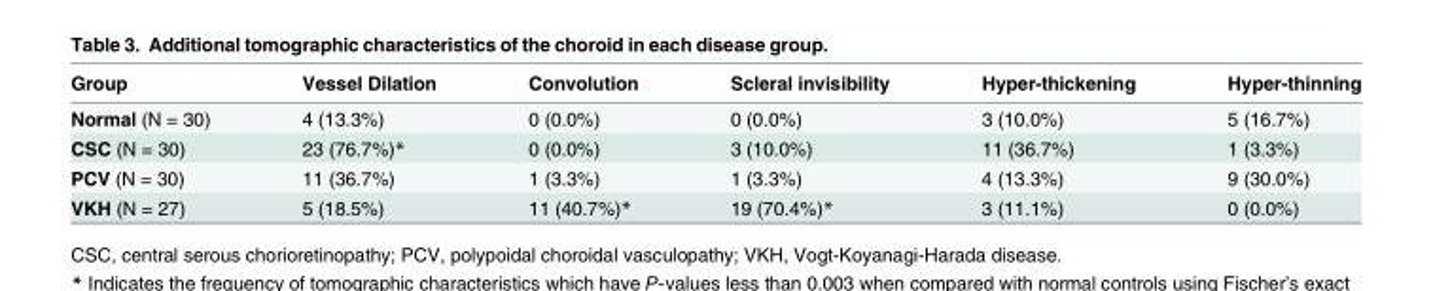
<table><thead><tr><td>Group</td><td>Vessel Dilation</td><td>Convolution</td><td>Scleral invisibility</td><td>Hyper-thickening</td><td>Hyper-thinning</td></tr></thead><tbody><tr><td>Normal (N = 30)</td><td>4 (13.3%)</td><td>0 (0.0%)</td><td>0 (0.0%)</td><td>3 (10.0%)</td><td>5 (16.7%)</td></tr><tr><td>CSC (N = 30)</td><td>23 (76.7%)*</td><td>0 (0.0%)</td><td>3 (10.0%)</td><td>11 (36.7%)</td><td>1 (3.3%)</td></tr><tr><td>PCV (N = 30)</td><td>11 (36.7%)</td><td>1 (3.3%)</td><td>1 (3.3%)</td><td>4 (13.3%)</td><td>9 (30.0%)</td></tr><tr><td>VKH (N = 27)</td><td>5 (18.5%)</td><td>11 (40.7%)*</td><td>19 (70.4%)*</td><td>3 (11.1%)</td><td>0 (0.0%)</td></tr></tbody></table>